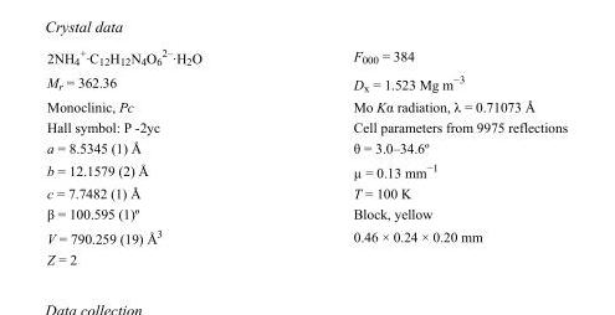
<table><tbody><tr><td>2NH<sub>4</sub> <sup>+</sup>·C<sub>12</sub>H<sub>12</sub>N<sub>4</sub>O<sub>6</sub> <sup>2–</sup>·H<sub>2</sub>O</td><td>F000 = 384</td></tr><tr><td>M<sub>r</sub> = 362.36</td><td>D<sub>x</sub> = 1.523 Mg m<sup>−3</sup></td></tr><tr><td>Monoclinic, Pc</td><td>Mo Kα radiation, λ = 0.71073 Å</td></tr><tr><td>Hall symbol: P -2yc</td><td>Cell parameters from 9975 reflections</td></tr><tr><td>a = 8.5345 (1) Å</td><td>θ = 3.0–34.6º</td></tr><tr><td>b = 12.1579 (2) Å</td><td>µ = 0.13 mm<sup>−1</sup></td></tr><tr><td>c = 7.7482 (1) Å</td><td>T = 100 K</td></tr><tr><td>β = 100.595 (1)º</td><td>Block, yellow</td></tr><tr><td>V = 790.259 (19) Å3</td><td>0.46 × 0.24 × 0.20 mm</td></tr><tr><td>Z = 2</td><td></td></tr></tbody></table>